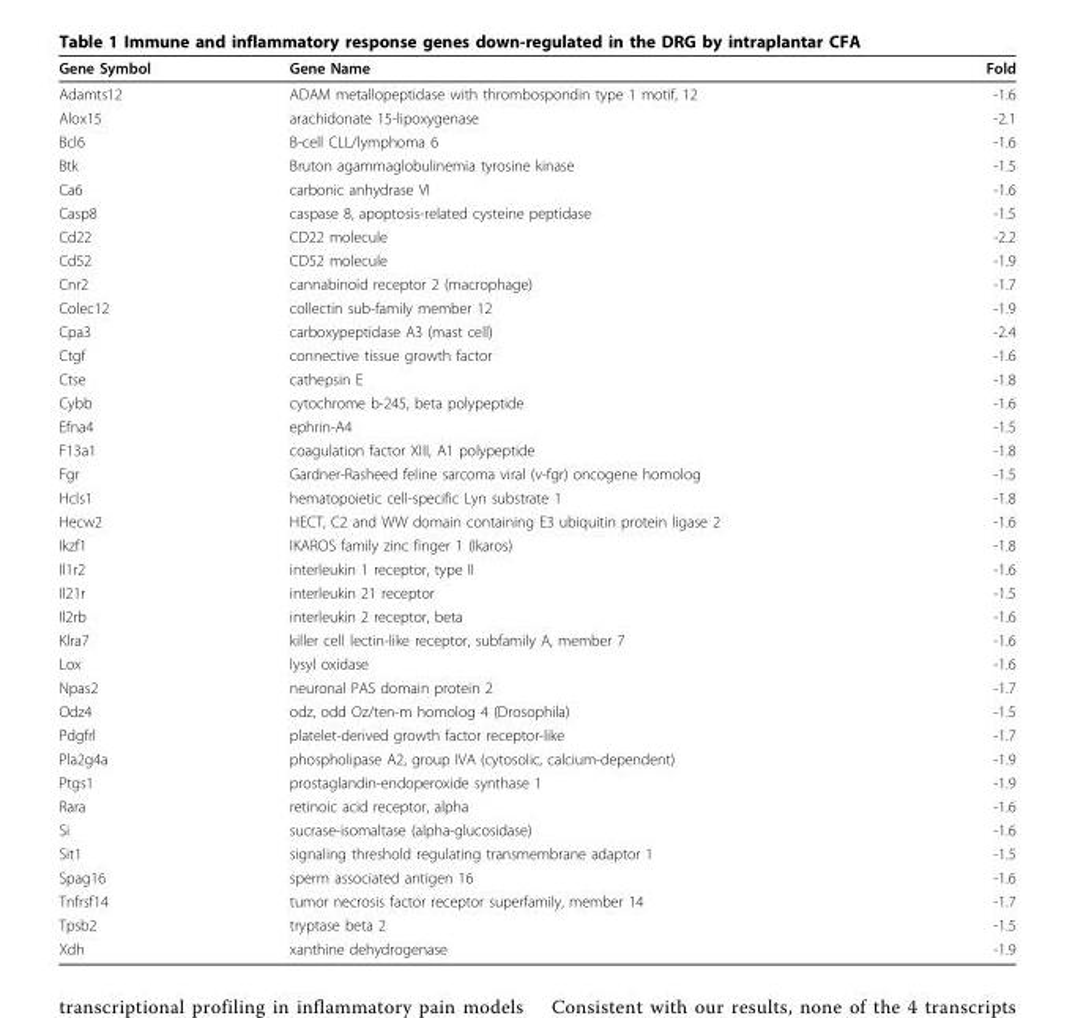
<table><thead><tr><td>Gene Symbol</td><td>Gene Name</td><td>Fold</td></tr></thead><tbody><tr><td>Adamts12</td><td>ADAM metallopeptidase with thrombospondin type 1 motif, 12</td><td>-1.6</td></tr><tr><td>Alox15</td><td>arachidonate 15-lipoxygenase</td><td>-2.1</td></tr><tr><td>Bcl6</td><td>B-cell CLL/lymphoma 6</td><td>-1.6</td></tr><tr><td>Btk</td><td>Bruton agammaglobulinemia tyrosine kinase</td><td>-1.5</td></tr><tr><td>Ca6</td><td>carbonic anhydrase VI</td><td>-1.6</td></tr><tr><td>Casp8</td><td>caspase 8, apoptosis-related cysteine peptidase</td><td>-1.5</td></tr><tr><td>Cd22</td><td>CD22 molecule</td><td>-2.2</td></tr><tr><td>Cd52</td><td>CD52 molecule</td><td>-1.9</td></tr><tr><td>Cnr2</td><td>cannabinoid receptor 2 (macrophage)</td><td>-1.7</td></tr><tr><td>Colec12</td><td>collectin sub-family member 12</td><td>-1.9</td></tr><tr><td>Cpa3</td><td>carboxypeptidase A3 (mast cell)</td><td>-2.4</td></tr><tr><td>Ctgf</td><td>connective tissue growth factor</td><td>-1.6</td></tr><tr><td>Ctse</td><td>cathepsin E</td><td>-1.8</td></tr><tr><td>Cybb</td><td>cytochrome b-245, beta polypeptide</td><td>-1.6</td></tr><tr><td>Efna4</td><td>ephrin-A4</td><td>-1.5</td></tr><tr><td>F13a1</td><td>coagulation factor XIII, A1 polypeptide</td><td>-1.8</td></tr><tr><td>Fgr</td><td>Gardner-Rasheed feline sarcoma viral (v-fgr) oncogene homolog</td><td>-1.5</td></tr><tr><td>Hcls1</td><td>hematopoietic cell-specific Lyn substrate 1</td><td>-1.8</td></tr><tr><td>Hecw2</td><td>HECT, C2 and WW domain containing E3 ubiquitin protein ligase 2</td><td>-1.6</td></tr><tr><td>Ikzf1</td><td>IKAROS family zinc finger 1 (Ikaros)</td><td>-1.8</td></tr><tr><td>Il1r2</td><td>interleukin 1 receptor, type II</td><td>-1.6</td></tr><tr><td>Il21r</td><td>interleukin 21 receptor</td><td>-1.5</td></tr><tr><td>Il2rb</td><td>interleukin 2 receptor, beta</td><td>-1.6</td></tr><tr><td>Klra7</td><td>killer cell lectin-like receptor, subfamily A, member 7</td><td>-1.6</td></tr><tr><td>Lox</td><td>lysyl oxidase</td><td>-1.6</td></tr><tr><td>Npas2</td><td>neuronal PAS domain protein 2</td><td>-1.7</td></tr><tr><td>Odz4</td><td>odz, odd Oz/ten-m homolog 4 (Drosophila)</td><td>-1.5</td></tr><tr><td>Pdgfrl</td><td>platelet-derived growth factor receptor-like</td><td>-1.7</td></tr><tr><td>Pla2g4a</td><td>phospholipase A2, group IVA (cytosolic, calcium-dependent)</td><td>-1.9</td></tr><tr><td>Ptgs1</td><td>prostaglandin-endoperoxide synthase 1</td><td>-1.9</td></tr><tr><td>Rara</td><td>retinoic acid receptor, alpha</td><td>-1.6</td></tr><tr><td>Si</td><td>sucrase-isomaltase (alpha-glucosidase)</td><td>-1.6</td></tr><tr><td>Sit1</td><td>signaling threshold regulating transmembrane adaptor 1</td><td>-1.5</td></tr><tr><td>Spag16</td><td>sperm associated antigen 16</td><td>-1.6</td></tr><tr><td>Tnfrsf14</td><td>tumor necrosis factor receptor superfamily, member 14</td><td>-1.7</td></tr><tr><td>Tpsb2</td><td>tryptase beta 2</td><td>-1.5</td></tr><tr><td>Xdh</td><td>xanthine dehydrogenase</td><td>-1.9</td></tr></tbody></table>